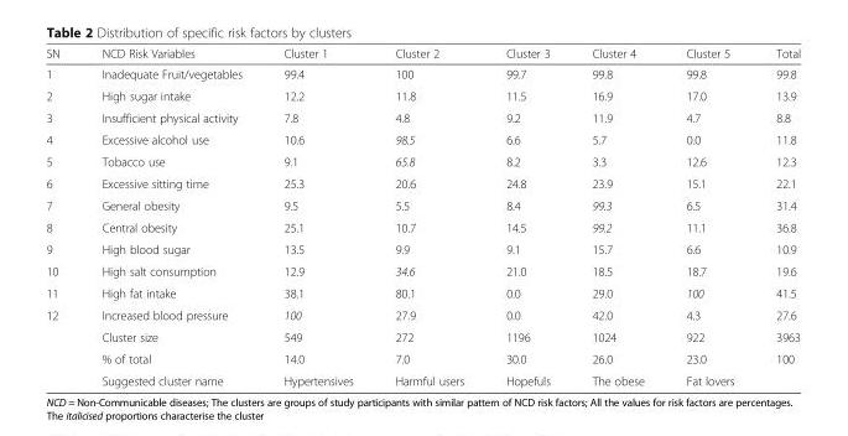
<table><thead><tr><td>SN</td><td>NCD Risk Variables</td><td>Cluster 1</td><td>Cluster 2</td><td>Cluster 3</td><td>Cluster 4</td><td>Cluster 5</td><td>Total</td></tr></thead><tbody><tr><td>1</td><td>Inadequate Fruit/vegetables</td><td>99.4</td><td>100</td><td>99.7</td><td>99.8</td><td>99.8</td><td>99.8</td></tr><tr><td>2</td><td>High sugar intake</td><td>12.2</td><td>11.8</td><td>11.5</td><td>16.9</td><td>17.0</td><td>13.9</td></tr><tr><td>3</td><td>Insufficient physical activity</td><td>7.8</td><td>4.8</td><td>9.2</td><td>11.9</td><td>4.7</td><td>8.8</td></tr><tr><td>4</td><td>Excessive alcohol use</td><td>10.6</td><td>98.5</td><td>6.6</td><td>5.7</td><td>0.0</td><td>11.8</td></tr><tr><td>5</td><td>Tobacco use</td><td>9.1</td><td>65.8</td><td>8.2</td><td>3.3</td><td>12.6</td><td>12.3</td></tr><tr><td>6</td><td>Excessive sitting time</td><td>25.3</td><td>20.6</td><td>24.8</td><td>23.9</td><td>15.1</td><td>22.1</td></tr><tr><td>7</td><td>General obesity</td><td>9.5</td><td>5.5</td><td>8.4</td><td>99.3</td><td>6.5</td><td>31.4</td></tr><tr><td>8</td><td>Central obesity</td><td>25.1</td><td>10.7</td><td>14.5</td><td>99.2</td><td>11.1</td><td>36.8</td></tr><tr><td>9</td><td>High blood sugar</td><td>13.5</td><td>9.9</td><td>9.1</td><td>15.7</td><td>6.6</td><td>10.9</td></tr><tr><td>10</td><td>High salt consumption</td><td>12.9</td><td>34.6</td><td>21.0</td><td>18.5</td><td>18.7</td><td>19.6</td></tr><tr><td>11</td><td>High fat intake</td><td>38.1</td><td>80.1</td><td>0.0</td><td>29.0</td><td>100</td><td>41.5</td></tr><tr><td rowspan="4">12</td><td>Increased blood pressure</td><td>100</td><td>27.9</td><td>0.0</td><td>42.0</td><td>4.3</td><td>27.6</td></tr><tr><td>Cluster size</td><td>549</td><td>272</td><td>1196</td><td>1024</td><td>922</td><td>3963</td></tr><tr><td>% of total</td><td>14.0</td><td>7.0</td><td>30.0</td><td>26.0</td><td>23.0</td><td>100</td></tr><tr><td>Suggested cluster name</td><td>Hypertensives</td><td>Harmful users</td><td>Hopefuls</td><td>The obese</td><td>Fat lovers</td><td></td></tr></tbody></table>